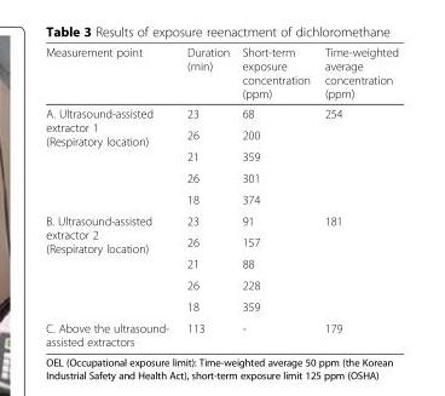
<table><thead><tr><td>Measurement point</td><td>Duration (min)</td><td>Short-term exposure concentration (ppm)</td><td>Time-weighted average concentration (ppm)</td></tr></thead><tbody><tr><td rowspan="5">A. Ultrasound-assisted extractor 1 (Respiratory location)</td><td>23</td><td>68</td><td rowspan="5">254</td></tr><tr><td>26</td><td>200</td></tr><tr><td>21</td><td>359</td></tr><tr><td>26</td><td>301</td></tr><tr><td>18</td><td>374</td></tr><tr><td rowspan="5">B. Ultrasound-assisted extractor 2 (Respiratory location)</td><td>23</td><td>91</td><td rowspan="5">181</td></tr><tr><td>26</td><td>157</td></tr><tr><td>21</td><td>88</td></tr><tr><td>26</td><td>228</td></tr><tr><td>18</td><td>359</td></tr><tr><td>C. Above the ultrasound- assisted extractors</td><td>113</td><td>-</td><td>179</td></tr></tbody></table>